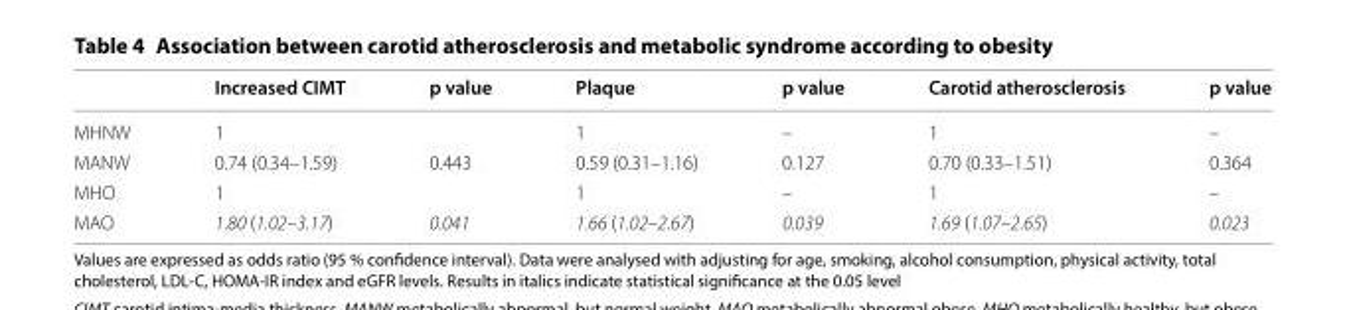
<table><thead><tr><td></td><td>Increased CIMT</td><td>p value</td><td>Plaque</td><td>p value</td><td>Carotid atherosclerosis</td><td>p value</td></tr></thead><tbody><tr><td>MHNW</td><td>1</td><td></td><td>1</td><td>–</td><td>1</td><td>–</td></tr><tr><td>MANW</td><td>0.74 (0.34–1.59)</td><td>0.443</td><td>0.59 (0.31–1.16)</td><td>0.127</td><td>0.70 (0.33–1.51)</td><td>0.364</td></tr><tr><td>MHO</td><td>1</td><td></td><td>1</td><td>–</td><td>1</td><td>–</td></tr><tr><td>MAO</td><td>1.80 (1.02–3.17)</td><td>0.041</td><td>1.66 (1.02–2.67)</td><td>0.039</td><td>1.69 (1.07–2.65)</td><td>0.023</td></tr></tbody></table>